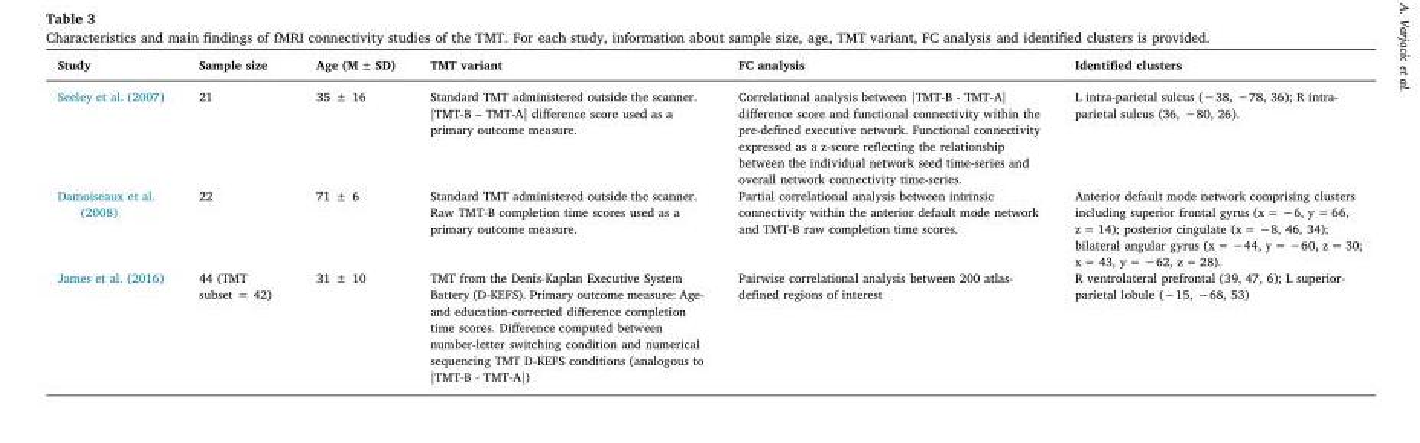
<table><thead><tr><td>Study</td><td>Sample size</td><td>Age (M ± SD)</td><td>TMT variant</td><td>FC analysis</td><td>Identified clusters</td></tr></thead><tbody><tr><td>Seeley et al. (2007)</td><td>21</td><td>35 ± 16</td><td>Standard TMT administered outside the scanner. |TMT-B – TMT-A| difference score used as a primary outcome measure.</td><td>Correlational analysis between |TMT-B - TMT-A| difference score and functional connectivity within the pre-defined executive network. Functional connectivity expressed as a z-score reflecting the relationship between the individual network seed time-series and overall network connectivity time-series.</td><td>L intra-parietal sulcus (−38, −78, 36); R intra- parietal sulcus (36, −80, 26).</td></tr><tr><td>Damoiseaux et al. (2008)</td><td>22</td><td>71 ± 6</td><td>Standard TMT administered outside the scanner. Raw TMT-B completion time scores used as a primary outcome measure.</td><td>Partial correlational analysis between intrinsic connectivity within the anterior default mode network and TMT-B raw completion time scores.</td><td>Anterior default mode network comprising clusters including superior frontal gyrus (x = −6, y = 66, z = 14); posterior cingulate (x = −8, 46, 34); bilateral angular gyrus (x = −44, y = −60, z = 30; x = 43, y = −62, z = 28).</td></tr><tr><td>James et al. (2016)</td><td>44 (TMT subset = 42)</td><td>31 ± 10</td><td>TMT from the Denis-Kaplan Executive System Battery (D-KEFS). Primary outcome measure: Age- and education-corrected difference completion time scores. Difference computed between number-letter switching condition and numerical sequencing TMT D-KEFS conditions (analogous to |TMT-B - TMT-A|)</td><td>Pairwise correlational analysis between 200 atlas- defined regions of interest</td><td>R ventrolateral prefrontal (39, 47, 6); L superior- parietal lobule (−15, −68, 53)</td></tr></tbody></table>